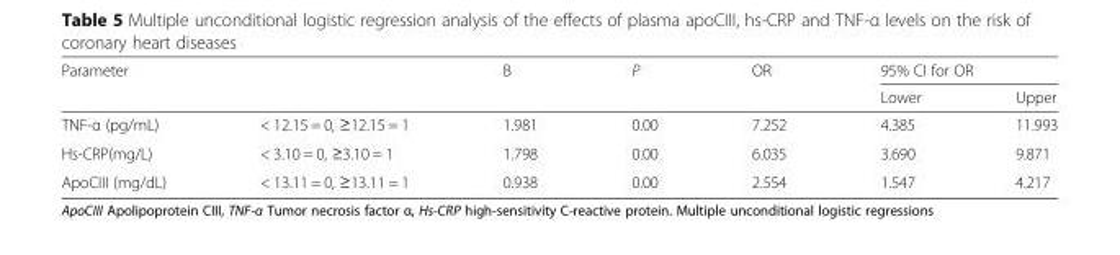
<table><thead><tr><td rowspan="2">Parameter</td><td rowspan="2"></td><td rowspan="2">B</td><td rowspan="2">P</td><td rowspan="2">OR</td><td colspan="2">95% CI for OR</td></tr><tr><td>Lower</td><td>Upper</td></tr></thead><tbody><tr><td>TNF-α (pg/mL)</td><td>&lt; 12.15 = 0, ≥12.15 = 1</td><td>1.981</td><td>0.00</td><td>7.252</td><td>4.385</td><td>11.993</td></tr><tr><td>Hs-CRP(mg/L)</td><td>&lt; 3.10 = 0, ≥3.10 = 1</td><td>1.798</td><td>0.00</td><td>6.035</td><td>3.690</td><td>9.871</td></tr><tr><td>ApoCIII (mg/dL)</td><td>&lt; 13.11 = 0, ≥13.11 = 1</td><td>0.938</td><td>0.00</td><td>2.554</td><td>1.547</td><td>4.217</td></tr></tbody></table>